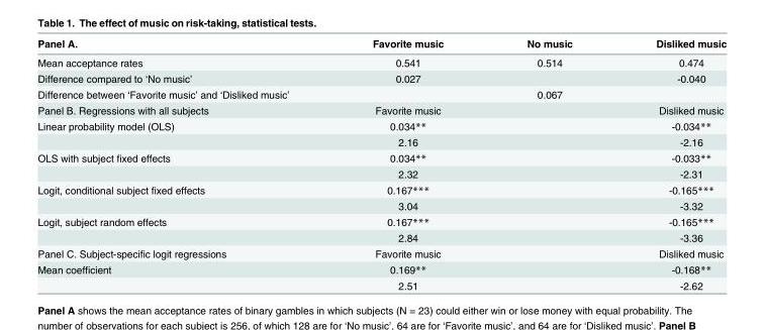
<table><thead><tr><td>Panel A.</td><td>Favorite music</td><td>No music</td><td>Disliked music</td></tr></thead><tbody><tr><td>Mean acceptance rates</td><td>0.541</td><td>0.514</td><td>0.474</td></tr><tr><td>Difference compared to ‘No music’</td><td>0.027</td><td></td><td>-0.040</td></tr><tr><td>Difference between ‘Favorite music’ and ‘Disliked music’</td><td></td><td>0.067</td><td></td></tr><tr><td>Panel B. Regressions with all subjects</td><td>Favorite music</td><td></td><td>Disliked music</td></tr><tr><td rowspan="2">Linear probability model (OLS)</td><td>0.034**</td><td></td><td>-0.034**</td></tr><tr><td>2.16</td><td></td><td>-2.16</td></tr><tr><td rowspan="2">OLS with subject fixed effects</td><td>0.034**</td><td></td><td>-0.033**</td></tr><tr><td>2.32</td><td></td><td>-2.31</td></tr><tr><td rowspan="2">Logit, conditional subject fixed effects</td><td>0.167***</td><td></td><td>-0.165***</td></tr><tr><td>3.04</td><td></td><td>-3.32</td></tr><tr><td rowspan="2">Logit, subject random effects</td><td>0.167***</td><td></td><td>-0.165***</td></tr><tr><td>2.84</td><td></td><td>-3.36</td></tr><tr><td>Panel C. Subject-specific logit regressions</td><td>Favorite music</td><td></td><td>Disliked music</td></tr><tr><td rowspan="2">Mean coefficient</td><td>0.169**</td><td></td><td>-0.168**</td></tr><tr><td>2.51</td><td></td><td>-2.62</td></tr></tbody></table>